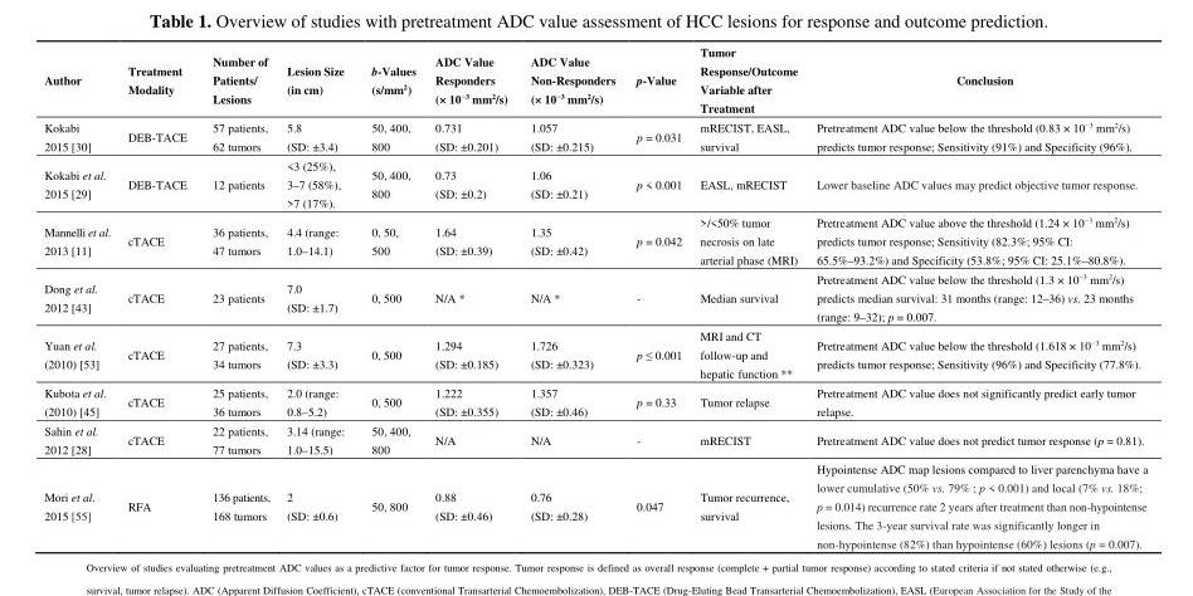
<table><thead><tr><td>Author</td><td>Treatment Modality</td><td>Number of Patients/ Lesions</td><td>Lesion Size (in cm)</td><td>b-Values (s/mm<sup>2</sup>)</td><td>ADC Value Responders (× 10<sup>−3</sup> mm<sup>2</sup>/s)</td><td>ADC Value Non-Responders (× 10<sup>−3</sup> mm<sup>2</sup>/s)</td><td>p-Value</td><td>Tumor Response/Outcome Variable after Treatment</td><td>Conclusion</td></tr></thead><tbody><tr><td>Kokabi 2015 [30]</td><td>DEB-TACE</td><td>57 patients, 62 tumors</td><td>5.8 (SD: ±3.4)</td><td>50, 400, 800</td><td>0.731 (SD: ±0.201)</td><td>1.057 (SD: ±0.215)</td><td>p = 0.031</td><td>mRECIST, EASL, survival</td><td>Pretreatment ADC value below the threshold (0.83 × 10<sup>−3</sup> mm<sup>2</sup>/s) predicts tumor response; Sensitivity (91%) and Specificity (96%).</td></tr><tr><td>Kokabi et al. 2015 [29]</td><td>DEB-TACE</td><td>12 patients</td><td>&lt;3 (25%), 3–7 (58%), &gt;7 (17%).</td><td>50, 400, 800</td><td>0.73 (SD: ±0.2)</td><td>1.06 (SD: ±0.21)</td><td>p &lt; 0.001</td><td>EASL, mRECIST</td><td>Lower baseline ADC values may predict objective tumor response.</td></tr><tr><td>Mannelli et al. 2013 [11]</td><td>cTACE</td><td>36 patients, 47 tumors</td><td>4.4 (range: 1.0–14.1)</td><td>0, 50, 500</td><td>1.64 (SD: ±0.39)</td><td>1.35 (SD: ±0.42)</td><td>p = 0.042</td><td>&gt;/&lt;50% tumor necrosis on late arterial phase (MRI)</td><td>Pretreatment ADC value above the threshold (1.24 × 10<sup>−3</sup> mm<sup>2</sup>/s) predicts tumor response; Sensitivity (82.3%; 95% CI: 65.5%–93.2%) and Specificity (53.8%; 95% CI: 25.1%–80.8%).</td></tr><tr><td>Dong et al. 2012 [43]</td><td>cTACE</td><td>23 patients</td><td>7.0 (SD: ±1.7)</td><td>0, 500</td><td>N/A *</td><td>N/A *</td><td>-</td><td>Median survival</td><td>Pretreatment ADC value below the threshold (1.3 × 10<sup>−3</sup> mm<sup>2</sup>/s) predicts median survival: 31 months (range: 12–36) vs. 23 months (range: 9–32); p = 0.007.</td></tr><tr><td>Yuan et al. (2010) [53]</td><td>cTACE</td><td>27 patients, 34 tumors</td><td>7.3 (SD: ±3.3)</td><td>0, 500</td><td>1.294 (SD: ±0.185)</td><td>1.726 (SD: ±0.323)</td><td>p ≤ 0.001</td><td>MRI and CT follow-up and hepatic function **</td><td>Pretreatment ADC value below the threshold (1.618 × 10<sup>−3</sup> mm<sup>2</sup>/s) predicts tumor response; Sensitivity (96%) and Specificity (77.8%).</td></tr><tr><td>Kubota et al. (2010) [45]</td><td>cTACE</td><td>25 patients, 36 tumors</td><td>2.0 (range: 0.8–5.2)</td><td>0, 500</td><td>1.222 (SD: ±0.355)</td><td>1.357 (SD: ±0.46)</td><td>p = 0.33</td><td>Tumor relapse</td><td>Pretreatment ADC value does not significantly predict early tumor relapse.</td></tr><tr><td>Sahin et al. 2012 [28]</td><td>cTACE</td><td>22 patients, 77 tumors</td><td>3.14 (range: 1.0–15.5)</td><td>50, 400, 800</td><td>N/A</td><td>N/A</td><td>-</td><td>mRECIST</td><td>Pretreatment ADC value does not predict tumor response (p = 0.81).</td></tr><tr><td>Mori et al. 2015 [55]</td><td>RFA</td><td>136 patients, 168 tumors</td><td>2 (SD: ±0.6)</td><td>50, 800</td><td>0.88 (SD: ±0.46)</td><td>0.76 (SD: ±0.28)</td><td>0.047</td><td>Tumor recurrence, survival</td><td>Hypointense ADC map lesions compared to liver parenchyma have a lower cumulative (50% vs. 79% ; p &lt; 0.001) and local (7% vs. 18%; p = 0.014) recurrence rate 2 years after treatment than non-hypointense lesions. The 3-year survival rate was significantly longer in non-hypointense (82%) than hypointense (60%) lesions (p = 0.007).</td></tr></tbody></table>